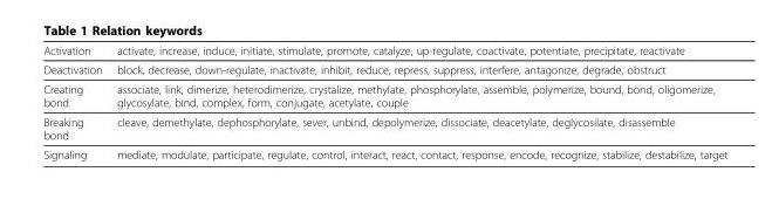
<table><thead><tr><td>Activation</td><td>activate, increase, induce, initiate, stimulate, promote, catalyze, up-regulate, coactivate, potentiate, precipitate, reactivate</td></tr></thead><tbody><tr><td>Deactivation</td><td>block, decrease, down-regulate, inactivate, inhibit, reduce, repress, suppress, interfere, antagonize, degrade, obstruct</td></tr><tr><td>Creating bond</td><td>associate, link, dimerize, heterodimerize, crystalize, methylate, phosphorylate, assemble, polymerize, bound, bond, oligomerize, glycosylate, bind, complex, form, conjugate, acetylate, couple</td></tr><tr><td>Breaking bond</td><td>cleave, demethylate, dephosphorylate, sever, unbind, depolymerize, dissociate, deacetylate, deglycosilate, disassemble</td></tr><tr><td>Signaling</td><td>mediate, modulate, participate, regulate, control, interact, react, contact, response, encode, recognize, stabilize, destabilize, target</td></tr></tbody></table>